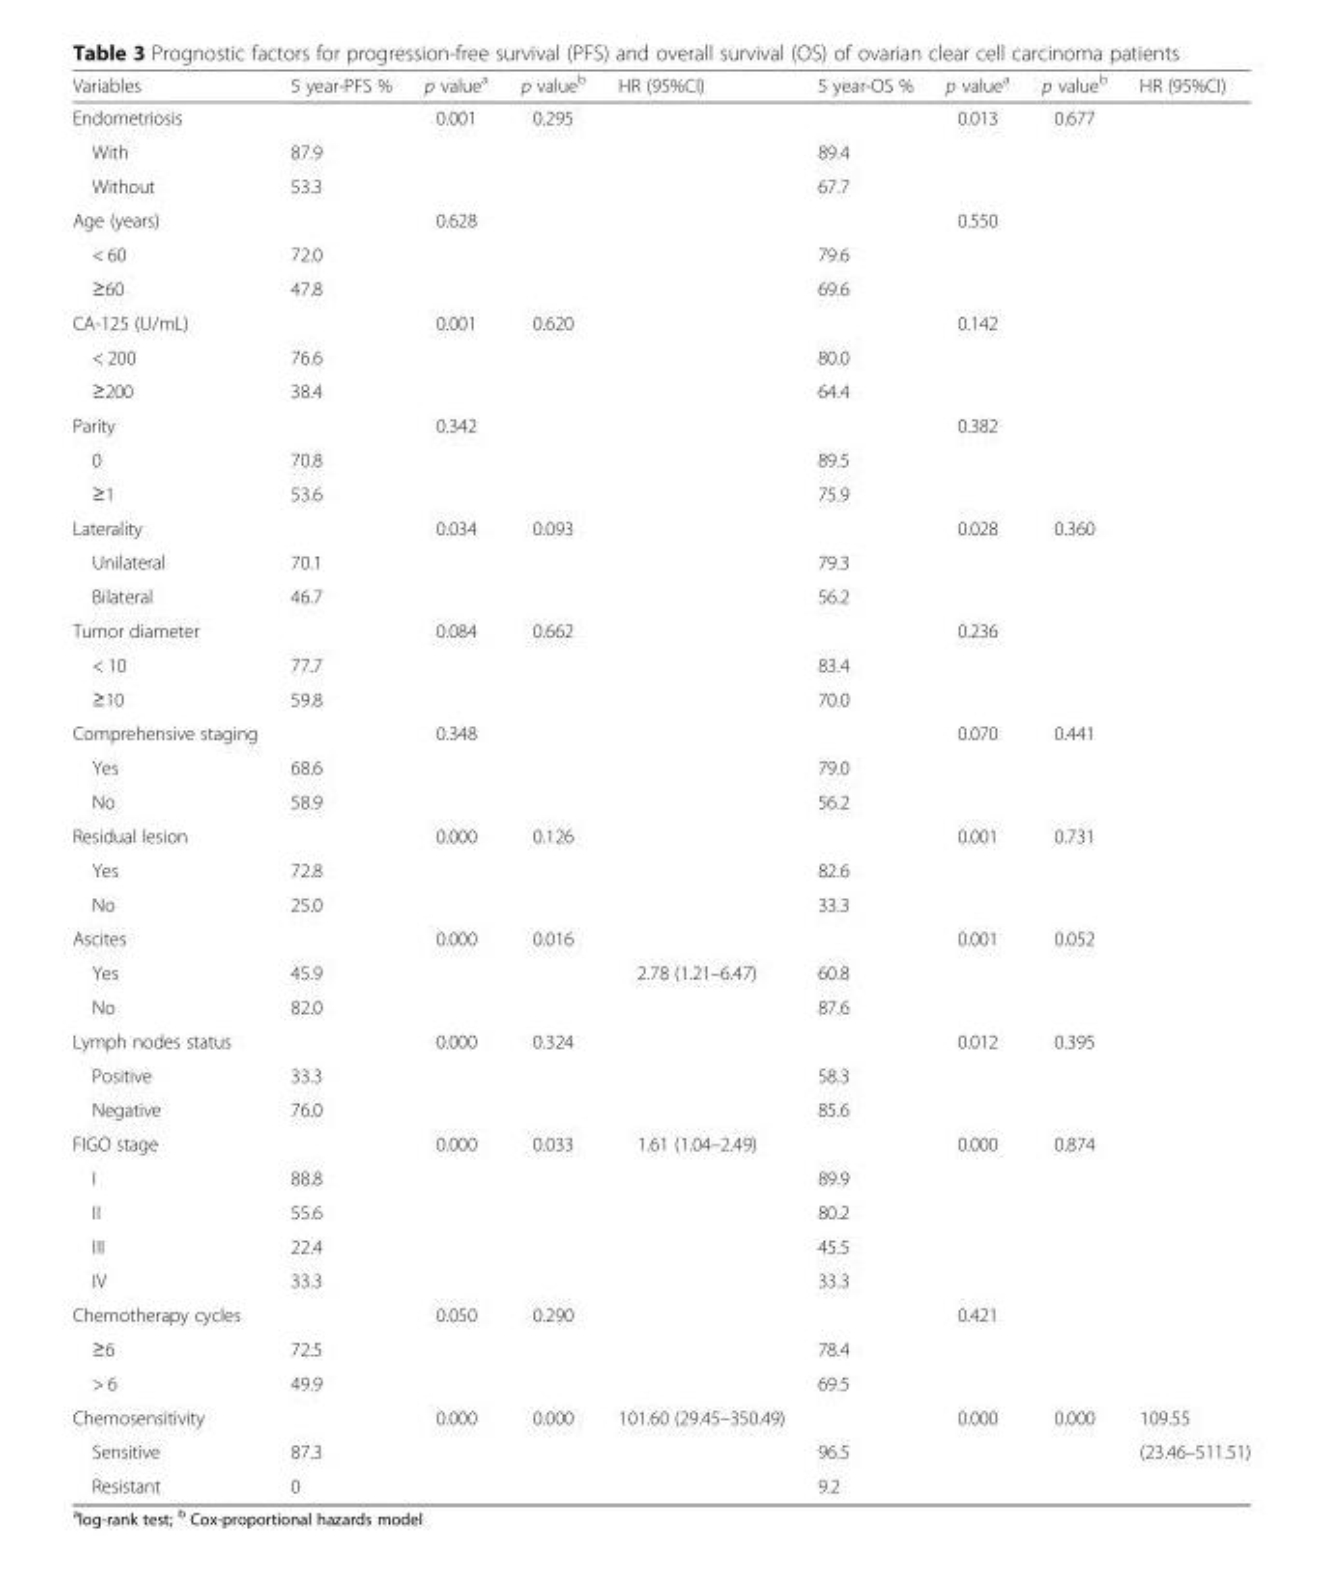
<table><thead><tr><td>Variables</td><td>5 year-PFS %</td><td>p value<sup>a</sup></td><td>p value<sup>b</sup></td><td>HR (95%CI)</td><td>5 year-OS %</td><td>p value<sup>a</sup></td><td>p value<sup>b</sup></td><td>HR (95%CI)</td></tr></thead><tbody><tr><td>Endometriosis</td><td></td><td>0.001</td><td>0.295</td><td></td><td></td><td>0.013</td><td>0.677</td><td></td></tr><tr><td>With</td><td>87.9</td><td></td><td></td><td></td><td>89.4</td><td></td><td></td><td></td></tr><tr><td>Without</td><td>53.3</td><td></td><td></td><td></td><td>67.7</td><td></td><td></td><td></td></tr><tr><td>Age (years)</td><td></td><td>0.628</td><td></td><td></td><td></td><td>0.550</td><td></td><td></td></tr><tr><td>&lt; 60</td><td>72.0</td><td></td><td></td><td></td><td>79.6</td><td></td><td></td><td></td></tr><tr><td>≥60</td><td>47.8</td><td></td><td></td><td></td><td>69.6</td><td></td><td></td><td></td></tr><tr><td>CA-125 (U/mL)</td><td></td><td>0.001</td><td>0.620</td><td></td><td></td><td>0.142</td><td></td><td></td></tr><tr><td>&lt; 200</td><td>76.6</td><td></td><td></td><td></td><td>80.0</td><td></td><td></td><td></td></tr><tr><td>≥200</td><td>38.4</td><td></td><td></td><td></td><td>64.4</td><td></td><td></td><td></td></tr><tr><td>Parity</td><td></td><td>0.342</td><td></td><td></td><td></td><td>0.382</td><td></td><td></td></tr><tr><td>0</td><td>70.8</td><td></td><td></td><td></td><td>89.5</td><td></td><td></td><td></td></tr><tr><td>≥1</td><td>53.6</td><td></td><td></td><td></td><td>75.9</td><td></td><td></td><td></td></tr><tr><td>Laterality</td><td></td><td>0.034</td><td>0.093</td><td></td><td></td><td>0.028</td><td>0.360</td><td></td></tr><tr><td>Unilateral</td><td>70.1</td><td></td><td></td><td></td><td>79.3</td><td></td><td></td><td></td></tr><tr><td>Bilateral</td><td>46.7</td><td></td><td></td><td></td><td>56.2</td><td></td><td></td><td></td></tr><tr><td>Tumor diameter</td><td></td><td>0.084</td><td>0.662</td><td></td><td></td><td>0.236</td><td></td><td></td></tr><tr><td>&lt; 10</td><td>77.7</td><td></td><td></td><td></td><td>83.4</td><td></td><td></td><td></td></tr><tr><td>≥10</td><td>59.8</td><td></td><td></td><td></td><td>70.0</td><td></td><td></td><td></td></tr><tr><td>Comprehensive staging</td><td></td><td>0.348</td><td></td><td></td><td></td><td>0.070</td><td>0.441</td><td></td></tr><tr><td>Yes</td><td>68.6</td><td></td><td></td><td></td><td>79.0</td><td></td><td></td><td></td></tr><tr><td>No</td><td>58.9</td><td></td><td></td><td></td><td>56.2</td><td></td><td></td><td></td></tr><tr><td>Residual lesion</td><td></td><td>0.000</td><td>0.126</td><td></td><td></td><td>0.001</td><td>0.731</td><td></td></tr><tr><td>Yes</td><td>72.8</td><td></td><td></td><td></td><td>82.6</td><td></td><td></td><td></td></tr><tr><td>No</td><td>25.0</td><td></td><td></td><td></td><td>33.3</td><td></td><td></td><td></td></tr><tr><td>Ascites</td><td></td><td>0.000</td><td>0.016</td><td></td><td></td><td>0.001</td><td>0.052</td><td></td></tr><tr><td>Yes</td><td>45.9</td><td></td><td></td><td rowspan="2">2.78 (1.21–6.47)</td><td>60.8</td><td></td><td></td><td></td></tr><tr><td>No</td><td>82.0</td><td></td><td></td><td>87.6</td><td></td><td></td><td></td></tr><tr><td>Lymph nodes status</td><td></td><td>0.000</td><td>0.324</td><td></td><td></td><td>0.012</td><td>0.395</td><td></td></tr><tr><td>Positive</td><td>33.3</td><td></td><td></td><td></td><td>58.3</td><td></td><td></td><td></td></tr><tr><td>Negative</td><td>76.0</td><td></td><td></td><td></td><td>85.6</td><td></td><td></td><td></td></tr><tr><td>FIGO stage</td><td></td><td>0.000</td><td>0.033</td><td rowspan="5">1.61 (1.04–2.49)</td><td></td><td>0.000</td><td>0.874</td><td></td></tr><tr><td>I</td><td>88.8</td><td></td><td></td><td>89.9</td><td></td><td></td><td></td></tr><tr><td>II</td><td>55.6</td><td></td><td></td><td>80.2</td><td></td><td></td><td></td></tr><tr><td>III</td><td>22.4</td><td></td><td></td><td>45.5</td><td></td><td></td><td></td></tr><tr><td>IV</td><td>33.3</td><td></td><td></td><td>33.3</td><td></td><td></td><td></td></tr><tr><td>Chemotherapy cycles</td><td></td><td>0.050</td><td>0.290</td><td></td><td></td><td>0.421</td><td></td><td></td></tr><tr><td>≥6</td><td>72.5</td><td></td><td></td><td></td><td>78.4</td><td></td><td></td><td></td></tr><tr><td>&gt; 6</td><td>49.9</td><td></td><td></td><td></td><td>69.5</td><td></td><td></td><td></td></tr><tr><td>Chemosensitivity</td><td></td><td>0.000</td><td>0.000</td><td rowspan="3">101.60 (29.45–350.49)</td><td></td><td>0.000</td><td>0.000</td><td>109.55</td></tr><tr><td>Sensitive</td><td>87.3</td><td></td><td></td><td>96.5</td><td></td><td></td><td rowspan="2">(23.46–511.51)</td></tr><tr><td>Resistant</td><td>0</td><td></td><td></td><td>9.2</td><td></td><td></td></tr></tbody></table>